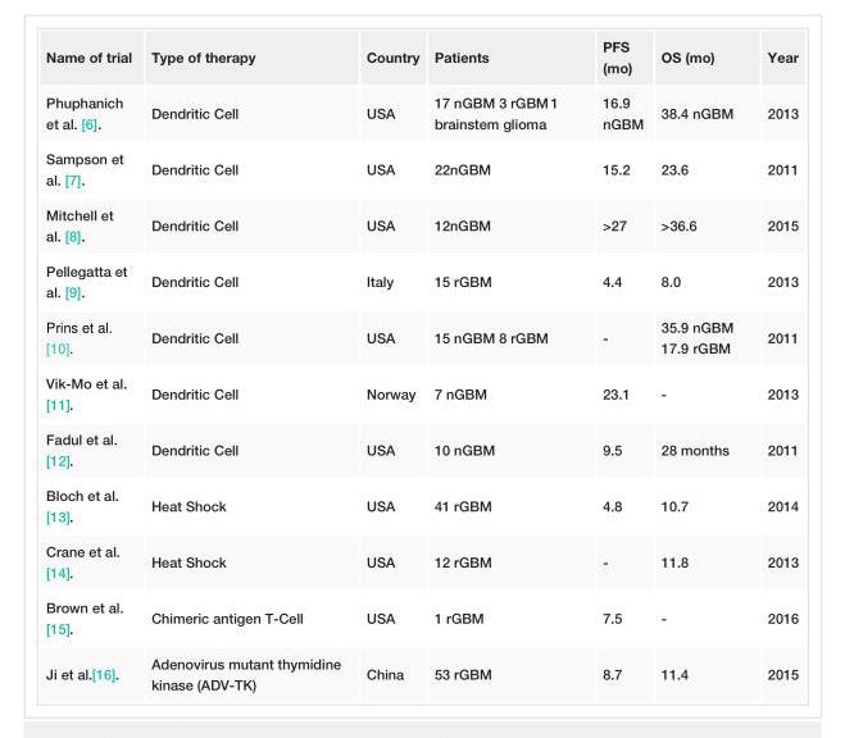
<table><tbody><tr><td>Name of trial</td><td>Type of therapy</td><td>Country</td><td>Patients</td><td>PFS (mo)</td><td>OS (mo)</td><td>Year</td></tr><tr><td>Phuphanich et al. [6].</td><td>Dendritic Cell</td><td>USA</td><td>17 nGBM 3 rGBM 1 brainstem glioma</td><td>16.9 nGBM</td><td>38.4 nGBM</td><td>2013</td></tr><tr><td>Sampson et al. [7].</td><td>Dendritic Cell</td><td>USA</td><td>22nGBM</td><td>15.2</td><td>23.6</td><td>2011</td></tr><tr><td>Mitchell et al. [8].</td><td>Dendritic Cell</td><td>USA</td><td>12nGBM</td><td>&gt;27</td><td>&gt;36.6</td><td>2015</td></tr><tr><td>Pellegatta et al. [9].</td><td>Dendritic Cell</td><td>Italy</td><td>15 rGBM</td><td>4.4</td><td>8.0</td><td>2013</td></tr><tr><td>Prins et al. [10].</td><td>Dendritic Cell</td><td>USA</td><td>15 nGBM 8 rGBM</td><td>-</td><td>35.9 nGBM 17.9 rGBM</td><td>2011</td></tr><tr><td>Vik-Mo et al. [11].</td><td>Dendritic Cell</td><td>Norway</td><td>7 nGBM</td><td>23.1</td><td>-</td><td>2013</td></tr><tr><td>Fadul et al. [12].</td><td>Dendritic Cell</td><td>USA</td><td>10 nGBM</td><td>9.5</td><td>28 months</td><td>2011</td></tr><tr><td>Bloch et al. [13].</td><td>Heat Shock</td><td>USA</td><td>41 rGBM</td><td>4.8</td><td>10.7</td><td>2014</td></tr><tr><td>Crane et al. [14].</td><td>Heat Shock</td><td>USA</td><td>12 rGBM</td><td>-</td><td>11.8</td><td>2013</td></tr><tr><td>Brown et al. [15].</td><td>Chimeric antigen T-Cell</td><td>USA</td><td>1 rGBM</td><td>7.5</td><td>-</td><td>2016</td></tr><tr><td>Ji et al.[16].</td><td>Adenovirus mutant thymidine kinase (ADV-TK)</td><td>China</td><td>53 rGBM</td><td>8.7</td><td>11.4</td><td>2015</td></tr></tbody></table>